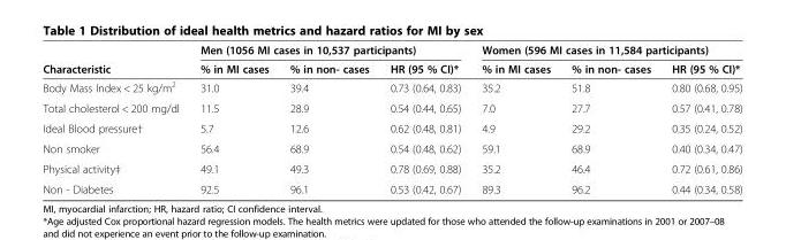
<table><thead><tr><td rowspan="2">Characteristic</td><td colspan="3">Men (1056 MI cases in 10,537 participants)</td><td colspan="3">Women (596 MI cases in 11,584 participants)</td></tr><tr><td>% in MI cases</td><td>% in non- cases</td><td>HR (95 % CI)*</td><td>% in MI cases</td><td>% in non- cases</td><td>HR (95 % CI)*</td></tr></thead><tbody><tr><td>Body Mass Index &lt; 25 kg/m<sup>2</sup></td><td>31.0</td><td>39.4</td><td>0.73 (0.64, 0.83)</td><td>35.2</td><td>51.8</td><td>0.80 (0.68, 0.95)</td></tr><tr><td>Total cholesterol &lt; 200 mg/dl</td><td>11.5</td><td>28.9</td><td>0.54 (0.44, 0.65)</td><td>7.0</td><td>27.7</td><td>0.57 (0.41, 0.78)</td></tr><tr><td>Ideal Blood pressure†</td><td>5.7</td><td>12.6</td><td>0.62 (0.48, 0.81)</td><td>4.9</td><td>29.2</td><td>0.35 (0.24, 0.52)</td></tr><tr><td>Non smoker</td><td>56.4</td><td>68.9</td><td>0.54 (0.48, 0.62)</td><td>59.1</td><td>68.9</td><td>0.40 (0.34, 0.47)</td></tr><tr><td>Physical activity‡</td><td>49.1</td><td>49.3</td><td>0.78 (0.69, 0.88)</td><td>35.2</td><td>46.4</td><td>0.72 (0.61, 0.86)</td></tr><tr><td>Non - Diabetes</td><td>92.5</td><td>96.1</td><td>0.53 (0.42, 0.67)</td><td>89.3</td><td>96.2</td><td>0.44 (0.34, 0.58)</td></tr></tbody></table>